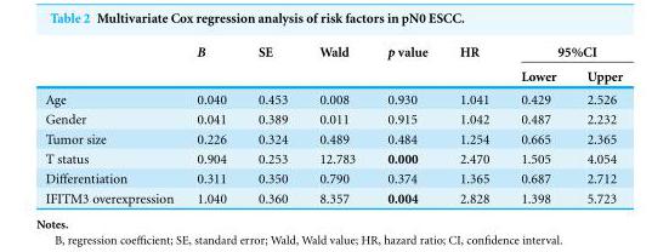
<table><thead><tr><td rowspan="2"></td><td rowspan="2">B</td><td rowspan="2">SE</td><td rowspan="2">Wald</td><td rowspan="2">p value</td><td rowspan="2">HR</td><td colspan="2">95%CI</td></tr><tr><td>Lower</td><td>Upper</td></tr></thead><tbody><tr><td>Age</td><td>0.040</td><td>0.453</td><td>0.008</td><td>0.930</td><td>1.041</td><td>0.429</td><td>2.526</td></tr><tr><td>Gender</td><td>0.041</td><td>0.389</td><td>0.011</td><td>0.915</td><td>1.042</td><td>0.487</td><td>2.232</td></tr><tr><td>Tumor size</td><td>0.226</td><td>0.324</td><td>0.489</td><td>0.484</td><td>1.254</td><td>0.665</td><td>2.365</td></tr><tr><td>T status</td><td>0.904</td><td>0.253</td><td>12.783</td><td>0.000</td><td>2.470</td><td>1.505</td><td>4.054</td></tr><tr><td>Differentiation</td><td>0.311</td><td>0.350</td><td>0.790</td><td>0.374</td><td>1.365</td><td>0.687</td><td>2.712</td></tr><tr><td>IFITM3 overexpression</td><td>1.040</td><td>0.360</td><td>8.357</td><td>0.004</td><td>2.828</td><td>1.398</td><td>5.723</td></tr></tbody></table>